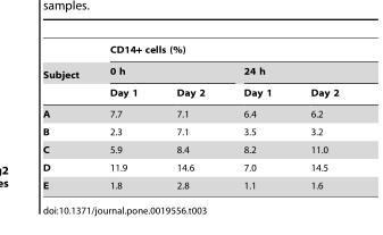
<table><thead><tr><td rowspan="3">Subject</td><td colspan="4">CD14+ cells (%)</td></tr><tr><td colspan="2">0 h</td><td colspan="2">24 h</td></tr><tr><td>Day 1</td><td>Day 2</td><td>Day 1</td><td>Day 2</td></tr></thead><tbody><tr><td>A</td><td>7.7</td><td>7.1</td><td>6.4</td><td>6.2</td></tr><tr><td>B</td><td>2.3</td><td>7.1</td><td>3.5</td><td>3.2</td></tr><tr><td>C</td><td>5.9</td><td>8.4</td><td>8.2</td><td>11.0</td></tr><tr><td>D</td><td>11.9</td><td>14.6</td><td>7.0</td><td>14.5</td></tr><tr><td>E</td><td>1.8</td><td>2.8</td><td>1.1</td><td>1.6</td></tr></tbody></table>